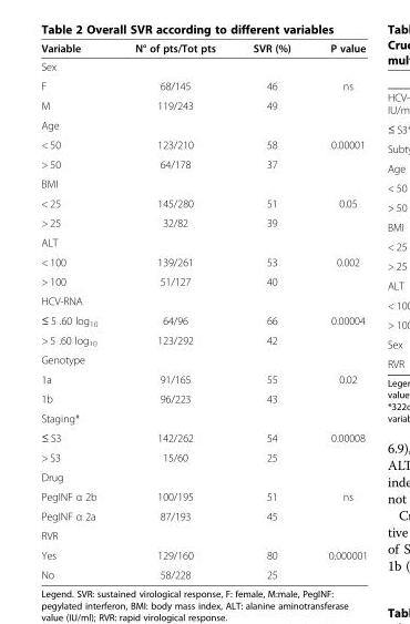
<table><thead><tr><td>Variable</td><td>N° of pts/Tot pts</td><td>SVR (%)</td><td>P value</td></tr></thead><tbody><tr><td colspan="4">Sex</td></tr><tr><td>F</td><td>68/145</td><td>46</td><td>ns</td></tr><tr><td>M</td><td>119/243</td><td>49</td><td></td></tr><tr><td colspan="4">Age</td></tr><tr><td>&lt; 50</td><td>123/210</td><td>58</td><td>0.00001</td></tr><tr><td>&gt; 50</td><td>64/178</td><td>37</td><td></td></tr><tr><td colspan="4">BMI</td></tr><tr><td>&lt; 25</td><td>145/280</td><td>51</td><td>0.05</td></tr><tr><td>&gt; 25</td><td>32/82</td><td>39</td><td></td></tr><tr><td colspan="4">ALT</td></tr><tr><td>&lt; 100</td><td>139/261</td><td>53</td><td>0.002</td></tr><tr><td>&gt; 100</td><td>51/127</td><td>40</td><td></td></tr><tr><td colspan="4">HCV-RNA</td></tr><tr><td>≤ 5 .60 log<sub>10</sub></td><td>64/96</td><td>66</td><td>0.00004</td></tr><tr><td>&gt; 5 .60 log<sub>10</sub></td><td>123/292</td><td>42</td><td></td></tr><tr><td colspan="4">Genotype</td></tr><tr><td>1a</td><td>91/165</td><td>55</td><td>0.02</td></tr><tr><td>1b</td><td>96/223</td><td>43</td><td></td></tr><tr><td colspan="4">Staging*</td></tr><tr><td>≤ S3</td><td>142/262</td><td>54</td><td>0.00008</td></tr><tr><td>&gt; S3</td><td>15/60</td><td>25</td><td></td></tr><tr><td colspan="4">Drug</td></tr><tr><td>PegINF α 2b</td><td>100/195</td><td>51</td><td>ns</td></tr><tr><td>PegINF α 2a</td><td>87/193</td><td>45</td><td></td></tr><tr><td colspan="4">RVR</td></tr><tr><td>Yes</td><td>129/160</td><td>80</td><td>0.000001</td></tr><tr><td>No</td><td>58/228</td><td>25</td><td></td></tr></tbody></table>